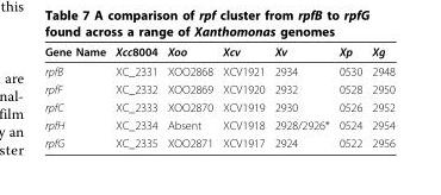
<table><thead><tr><td>Gene Name</td><td>Xcc8004</td><td>Xoo</td><td>Xcv</td><td>Xv</td><td>Xp</td><td>Xg</td></tr></thead><tbody><tr><td>rpfB</td><td>XC_2331</td><td>XOO2868</td><td>XCV1921</td><td>2934</td><td>0530</td><td>2948</td></tr><tr><td>rpfF</td><td>XC_2332</td><td>XOO2869</td><td>XCV1920</td><td>2932</td><td>0528</td><td>2950</td></tr><tr><td>rpfC</td><td>XC_2333</td><td>XOO2870</td><td>XCV1919</td><td>2930</td><td>0526</td><td>2952</td></tr><tr><td>rpfH</td><td>XC_2334</td><td>Absent</td><td>XCV1918</td><td>2928/2926*</td><td>0524</td><td>2954</td></tr><tr><td>rpfG</td><td>XC_2335</td><td>XOO2871</td><td>XCV1917</td><td>2924</td><td>0522</td><td>2956</td></tr></tbody></table>